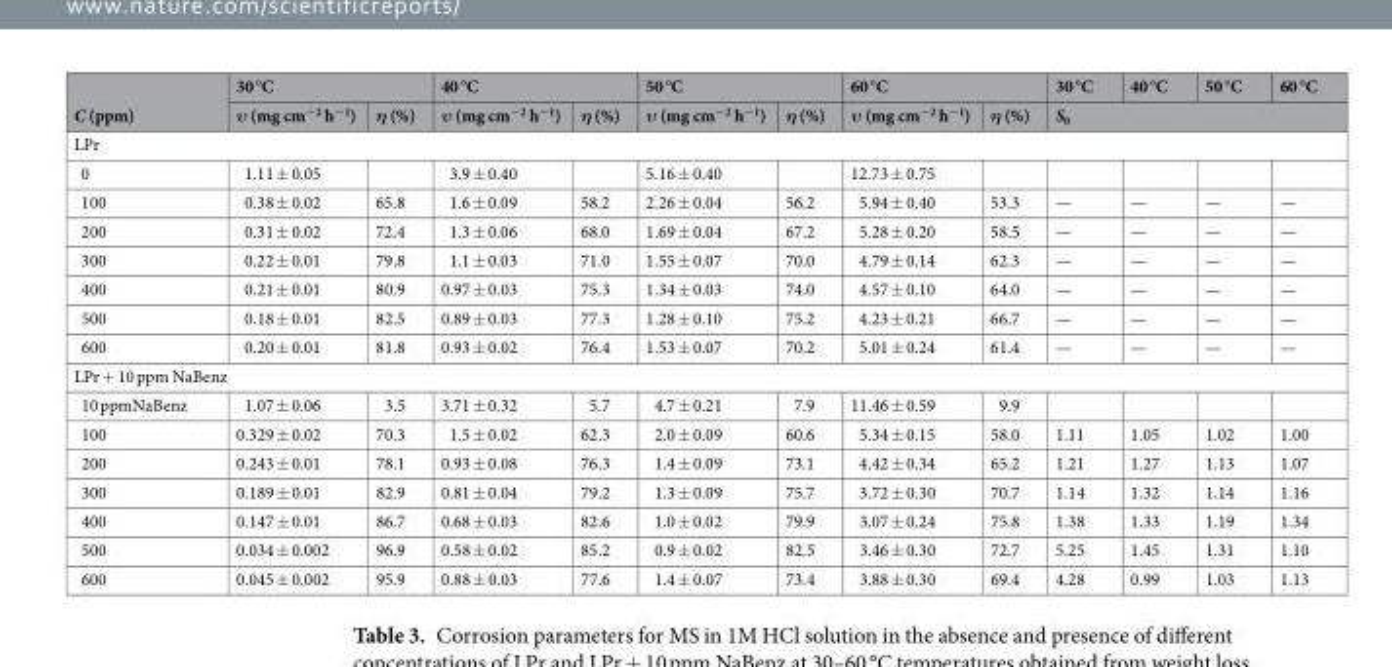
<table><thead><tr><td rowspan="2">C (ppm)</td><td colspan="2">30 °C</td><td colspan="2">40 °C</td><td colspan="2">50 °C</td><td colspan="2">60 °C</td><td>30 °C</td><td>40 °C</td><td>50 °C</td><td>60 °C</td></tr><tr><td>υ (mg cm<sup>−2</sup> h<sup>−1</sup>)</td><td>η (%)</td><td>υ (mg cm<sup>−2</sup> h<sup>−1</sup>)</td><td>η (%)</td><td>υ (mg cm<sup>−2</sup> h<sup>−1</sup>)</td><td>η (%)</td><td>υ (mg cm<sup>−2</sup> h<sup>−1</sup>)</td><td>η (%)</td><td colspan="4">S<sub>θ</sub></td></tr></thead><tbody><tr><td colspan="13">LPr</td></tr><tr><td>0</td><td>1.11 ± 0.05</td><td></td><td>3.9 ± 0.40</td><td></td><td>5.16 ± 0.40</td><td></td><td>12.73 ± 0.75</td><td></td><td></td><td></td><td></td><td></td></tr><tr><td>100</td><td>0.38 ± 0.02</td><td>65.8</td><td>1.6 ± 0.09</td><td>58.2</td><td>2.26 ± 0.04</td><td>56.2</td><td>5.94 ± 0.40</td><td>53.3</td><td>—</td><td>—</td><td>—</td><td>—</td></tr><tr><td>200</td><td>0.31 ± 0.02</td><td>72.4</td><td>1.3 ± 0.06</td><td>68.0</td><td>1.69 ± 0.04</td><td>67.2</td><td>5.28 ± 0.20</td><td>58.5</td><td>—</td><td>—</td><td>—</td><td>—</td></tr><tr><td>300</td><td>0.22 ± 0.01</td><td>79.8</td><td>1.1 ± 0.03</td><td>71.0</td><td>1.55 ± 0.07</td><td>70.0</td><td>4.79 ± 0.14</td><td>62.3</td><td>—</td><td>—</td><td>—</td><td>—</td></tr><tr><td>400</td><td>0.21 ± 0.01</td><td>80.9</td><td>0.97 ± 0.03</td><td>75.3</td><td>1.34 ± 0.03</td><td>74.0</td><td>4.57 ± 0.10</td><td>64.0</td><td>—</td><td>—</td><td>—</td><td>—</td></tr><tr><td>500</td><td>0.18 ± 0.01</td><td>82.5</td><td>0.89 ± 0.03</td><td>77.3</td><td>1.28 ± 0.10</td><td>75.2</td><td>4.23 ± 0.21</td><td>66.7</td><td>—</td><td>—</td><td>—</td><td>—</td></tr><tr><td>600</td><td>0.20 ± 0.01</td><td>81.8</td><td>0.93 ± 0.02</td><td>76.4</td><td>1.53 ± 0.07</td><td>70.2</td><td>5.01 ± 0.24</td><td>61.4</td><td>—</td><td>—</td><td>—</td><td>—</td></tr><tr><td colspan="13">LPr + 10 ppm NaBenz</td></tr><tr><td>10 ppmNaBenz</td><td>1.07 ± 0.06</td><td>3.5</td><td>3.71 ± 0.32</td><td>5.7</td><td>4.7 ± 0.21</td><td>7.9</td><td>11.46 ± 0.59</td><td>9.9</td><td></td><td></td><td></td><td></td></tr><tr><td>100</td><td>0.329 ± 0.02</td><td>70.3</td><td>1.5 ± 0.02</td><td>62.3</td><td>2.0 ± 0.09</td><td>60.6</td><td>5.34 ± 0.15</td><td>58.0</td><td>1.11</td><td>1.05</td><td>1.02</td><td>1.00</td></tr><tr><td>200</td><td>0.243 ± 0.01</td><td>78.1</td><td>0.93 ± 0.08</td><td>76.3</td><td>1.4 ± 0.09</td><td>73.1</td><td>4.42 ± 0.34</td><td>65.2</td><td>1.21</td><td>1.27</td><td>1.13</td><td>1.07</td></tr><tr><td>300</td><td>0.189 ± 0.01</td><td>82.9</td><td>0.81 ± 0.04</td><td>79.2</td><td>1.3 ± 0.09</td><td>75.7</td><td>3.72 ± 0.30</td><td>70.7</td><td>1.14</td><td>1.32</td><td>1.14</td><td>1.16</td></tr><tr><td>400</td><td>0.147 ± 0.01</td><td>86.7</td><td>0.68 ± 0.03</td><td>82.6</td><td>1.0 ± 0.02</td><td>79.9</td><td>3.07 ± 0.24</td><td>75.8</td><td>1.38</td><td>1.33</td><td>1.19</td><td>1.34</td></tr><tr><td>500</td><td>0.034 ± 0.002</td><td>96.9</td><td>0.58 ± 0.02</td><td>85.2</td><td>0.9 ± 0.02</td><td>82.5</td><td>3.46 ± 0.30</td><td>72.7</td><td>5.25</td><td>1.45</td><td>1.31</td><td>1.10</td></tr><tr><td>600</td><td>0.045 ± 0.002</td><td>95.9</td><td>0.88 ± 0.03</td><td>77.6</td><td>1.4 ± 0.07</td><td>73.4</td><td>3.88 ± 0.30</td><td>69.4</td><td>4.28</td><td>0.99</td><td>1.03</td><td>1.13</td></tr></tbody></table>